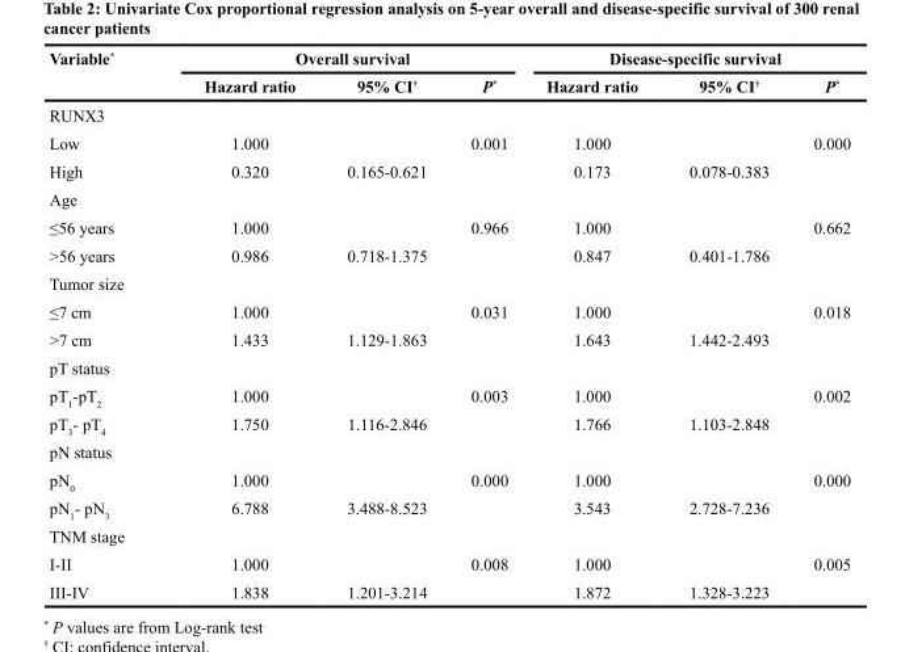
<table><thead><tr><td rowspan="2">Variable*</td><td colspan="3">Overall survival</td><td colspan="3">Disease-specific survival</td></tr><tr><td>Hazard ratio</td><td>95% CI<sup>†</sup></td><td>P*</td><td>Hazard ratio</td><td>95% CI<sup>†</sup></td><td>P*</td></tr></thead><tbody><tr><td colspan="7">RUNX3</td></tr><tr><td>Low</td><td>1.000</td><td></td><td>0.001</td><td>1.000</td><td></td><td>0.000</td></tr><tr><td>High</td><td>0.320</td><td>0.165-0.621</td><td></td><td>0.173</td><td>0.078-0.383</td><td></td></tr><tr><td colspan="7">Age</td></tr><tr><td>≤56 years</td><td>1.000</td><td></td><td>0.966</td><td>1.000</td><td></td><td>0.662</td></tr><tr><td>&gt;56 years</td><td>0.986</td><td>0.718-1.375</td><td></td><td>0.847</td><td>0.401-1.786</td><td></td></tr><tr><td colspan="7">Tumor size</td></tr><tr><td>≤7 cm</td><td>1.000</td><td></td><td>0.031</td><td>1.000</td><td></td><td>0.018</td></tr><tr><td>&gt;7 cm</td><td>1.433</td><td>1.129-1.863</td><td></td><td>1.643</td><td>1.442-2.493</td><td></td></tr><tr><td colspan="7">pT status</td></tr><tr><td>pT<sub>1</sub>-pT<sub>2</sub></td><td>1.000</td><td></td><td>0.003</td><td>1.000</td><td></td><td>0.002</td></tr><tr><td>pT<sub>3</sub>- pT<sub>4</sub></td><td>1.750</td><td>1.116-2.846</td><td></td><td>1.766</td><td>1.103-2.848</td><td></td></tr><tr><td colspan="7">pN status</td></tr><tr><td>pN<sub>0</sub></td><td>1.000</td><td></td><td>0.000</td><td>1.000</td><td></td><td>0.000</td></tr><tr><td>pN<sub>1</sub>- pN<sub>3</sub></td><td>6.788</td><td>3.488-8.523</td><td></td><td>3.543</td><td>2.728-7.236</td><td></td></tr><tr><td colspan="7">TNM stage</td></tr><tr><td>I-II</td><td>1.000</td><td></td><td>0.008</td><td>1.000</td><td></td><td>0.005</td></tr><tr><td>III-IV</td><td>1.838</td><td>1.201-3.214</td><td></td><td>1.872</td><td>1.328-3.223</td><td></td></tr></tbody></table>